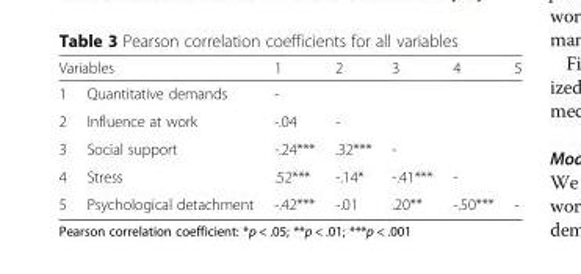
<table><thead><tr><td colspan="2">Variables</td><td rowspan="2">1 -</td><td rowspan="2">2</td><td rowspan="2">3</td><td rowspan="2">4</td><td rowspan="2">5</td></tr><tr><td>1</td><td>Quantitative demands</td></tr></thead><tbody><tr><td>2</td><td>Influence at work</td><td>-.04</td><td>-</td><td></td><td></td><td></td></tr><tr><td>3</td><td>Social support</td><td>-.24***</td><td>.32***</td><td>-</td><td></td><td></td></tr><tr><td>4</td><td>Stress</td><td>.52***</td><td>-.14*</td><td>-.41***</td><td>-</td><td></td></tr><tr><td>5</td><td>Psychological detachment</td><td>-.42***</td><td>-.01</td><td>.20**</td><td>-.50***</td><td>-</td></tr></tbody></table>